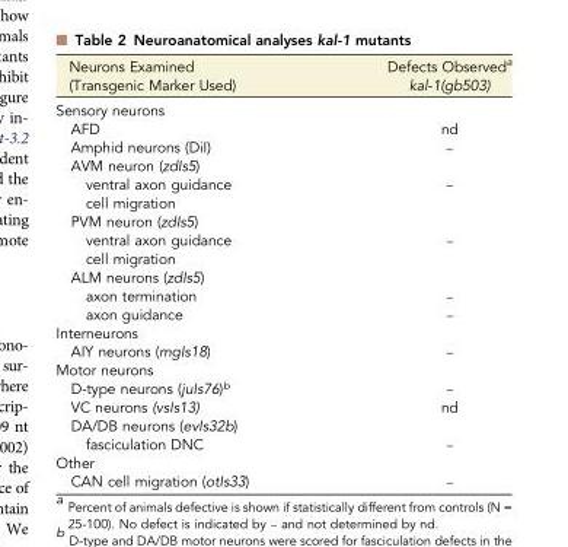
<table><thead><tr><td>Neurons Examined (Transgenic Marker Used)</td><td>Defects Observeda kal-1(gb503)</td></tr></thead><tbody><tr><td colspan="2">Sensory neurons</td></tr><tr><td>AFD</td><td>nd</td></tr><tr><td>Amphid neurons (DiI)</td><td>–</td></tr><tr><td colspan="2">AVM neuron (zdIs5)</td></tr><tr><td>ventral axon guidance</td><td>–</td></tr><tr><td colspan="2">cell migration</td></tr><tr><td colspan="2">PVM neuron (zdIs5)</td></tr><tr><td>ventral axon guidance</td><td>–</td></tr><tr><td colspan="2">cell migration</td></tr><tr><td colspan="2">ALM neurons (zdIs5)</td></tr><tr><td>axon termination</td><td>–</td></tr><tr><td>axon guidance</td><td>–</td></tr><tr><td colspan="2">Interneurons</td></tr><tr><td>AIY neurons (mgIs18)</td><td>–</td></tr><tr><td colspan="2">Motor neurons</td></tr><tr><td>D-type neurons (juIs76)<sup>b</sup></td><td>–</td></tr><tr><td>VC neurons (vsIs13)</td><td>nd</td></tr><tr><td colspan="2">DA/DB neurons (evIs32b)</td></tr><tr><td>fasciculation DNC</td><td>–</td></tr><tr><td colspan="2">Other</td></tr><tr><td>CAN cell migration (otIs33)</td><td>–</td></tr></tbody></table>